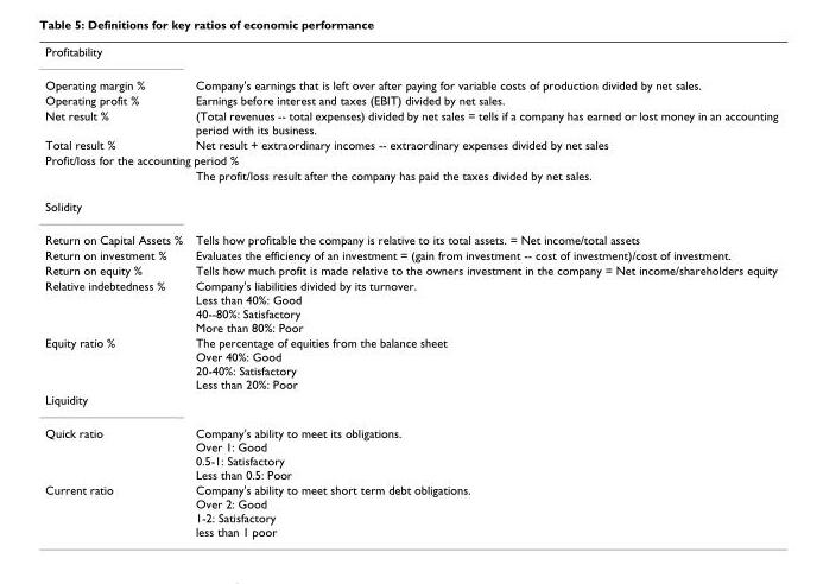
<table><tbody><tr><td colspan="2">Profitability</td></tr><tr><td>Operating margin %</td><td>Company&#x27;s earnings that is left over after paying for variable costs of production divided by net sales.</td></tr><tr><td>Operating profit %</td><td>Earnings before interest and taxes (EBIT) divided by net sales.</td></tr><tr><td>Net result %</td><td>(Total revenues -- total expenses) divided by net sales = tells if a company has earned or lost money in an accounting period with its business.</td></tr><tr><td>Total result %</td><td>Net result + extraordinary incomes -- extraordinary expenses divided by net sales</td></tr><tr><td colspan="2">Profit/loss for the accounting period %</td></tr><tr><td></td><td>The profit/loss result after the company has paid the taxes divided by net sales.</td></tr><tr><td colspan="2">Solidity</td></tr><tr><td>Return on Capital Assets %</td><td>Tells how profitable the company is relative to its total assets. = Net income/total assets</td></tr><tr><td>Return on investment %</td><td>Evaluates the efficiency of an investment = (gain from investment -- cost of investment)/cost of investment.</td></tr><tr><td>Return on equity %</td><td>Tells how much profit is made relative to the owners investment in the company = Net income/shareholders equity</td></tr><tr><td>Relative indebtedness %</td><td>Company&#x27;s liabilities divided by its turnover. Less than 40%: Good 40--80%: Satisfactory More than 80%: Poor</td></tr><tr><td>Equity ratio %</td><td>The percentage of equities from the balance sheet Over 40%: Good 20-40%: Satisfactory Less than 20%: Poor</td></tr><tr><td colspan="2">Liquidity</td></tr><tr><td>Quick ratio</td><td>Company&#x27;s ability to meet its obligations. Over 1: Good 0.5-1: Satisfactory Less than 0.5: Poor</td></tr><tr><td>Current ratio</td><td>Company&#x27;s ability to meet short term debt obligations. Over 2: Good 1-2: Satisfactory less than 1 poor</td></tr></tbody></table>